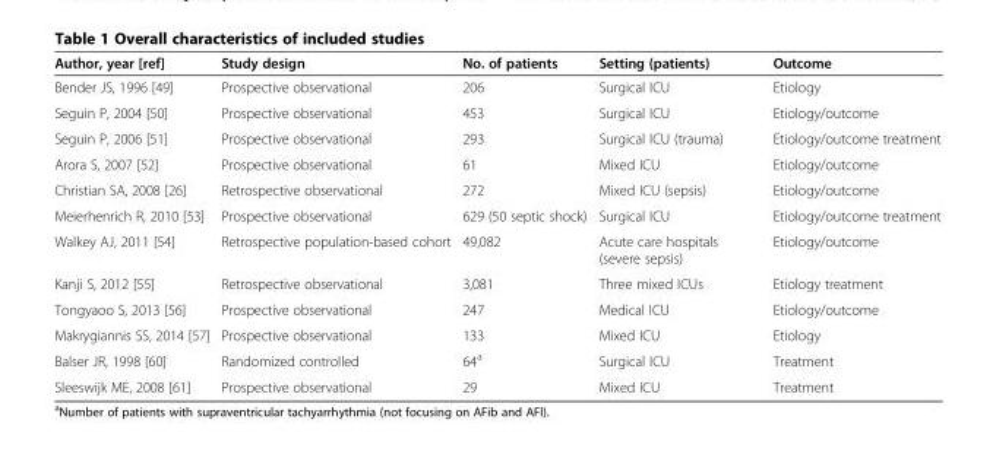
<table><thead><tr><td>Author, year [ref]</td><td>Study design</td><td>No. of patients</td><td>Setting (patients)</td><td>Outcome</td></tr></thead><tbody><tr><td>Bender JS, 1996 [49]</td><td>Prospective observational</td><td>206</td><td>Surgical ICU</td><td>Etiology</td></tr><tr><td>Seguin P, 2004 [50]</td><td>Prospective observational</td><td>453</td><td>Surgical ICU</td><td>Etiology/outcome</td></tr><tr><td>Seguin P, 2006 [51]</td><td>Prospective observational</td><td>293</td><td>Surgical ICU (trauma)</td><td>Etiology/outcome treatment</td></tr><tr><td>Arora S, 2007 [52]</td><td>Prospective observational</td><td>61</td><td>Mixed ICU</td><td>Etiology/outcome</td></tr><tr><td>Christian SA, 2008 [26]</td><td>Retrospective observational</td><td>272</td><td>Mixed ICU (sepsis)</td><td>Etiology/outcome</td></tr><tr><td>Meierhenrich R, 2010 [53]</td><td>Prospective observational</td><td>629 (50 septic shock)</td><td>Surgical ICU</td><td>Etiology/outcome treatment</td></tr><tr><td>Walkey AJ, 2011 [54]</td><td>Retrospective population-based cohort</td><td>49,082</td><td>Acute care hospitals (severe sepsis)</td><td>Etiology/outcome</td></tr><tr><td>Kanji S, 2012 [55]</td><td>Retrospective observational</td><td>3,081</td><td>Three mixed ICUs</td><td>Etiology treatment</td></tr><tr><td>Tongyaoo S, 2013 [56]</td><td>Prospective observational</td><td>247</td><td>Medical ICU</td><td>Etiology/outcome</td></tr><tr><td>Makrygiannis SS, 2014 [57]</td><td>Prospective observational</td><td>133</td><td>Mixed ICU</td><td>Etiology</td></tr><tr><td>Balser JR, 1998 [60]</td><td>Randomized controlled</td><td>64<sup>a</sup></td><td>Surgical ICU</td><td>Treatment</td></tr><tr><td>Sleeswijk ME, 2008 [61]</td><td>Prospective observational</td><td>29</td><td>Mixed ICU</td><td>Treatment</td></tr></tbody></table>